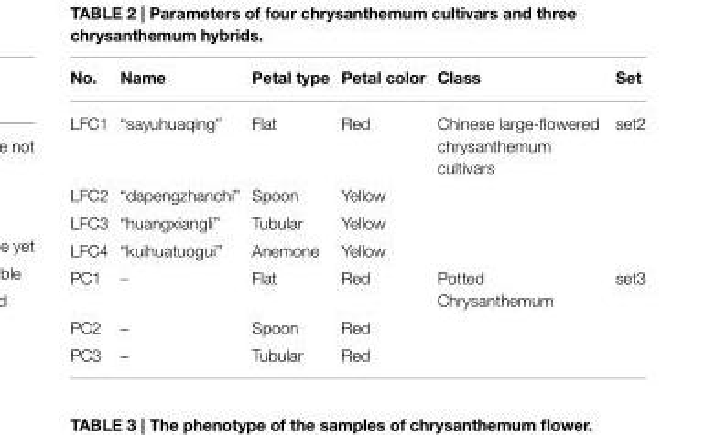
<table><thead><tr><td>No.</td><td>Name</td><td>Petal type</td><td>Petal color</td><td>Class</td><td>Set</td></tr></thead><tbody><tr><td>LFC1</td><td>“sayuhuaqing”</td><td>Flat</td><td>Red</td><td>Chinese large-flowered chrysanthemum cultivars</td><td>set2</td></tr><tr><td>LFC2</td><td>“dapengzhanchi”</td><td>Spoon</td><td>Yellow</td><td></td><td></td></tr><tr><td>LFC3</td><td>“huangxiangli”</td><td>Tubular</td><td>Yellow</td><td></td><td></td></tr><tr><td>LFC4</td><td>“kuihuatuogui”</td><td>Anemone</td><td>Yellow</td><td></td><td></td></tr><tr><td>PC1</td><td>–</td><td>Flat</td><td>Red</td><td>Potted Chrysanthemum</td><td>set3</td></tr><tr><td>PC2</td><td>–</td><td>Spoon</td><td>Red</td><td></td><td></td></tr><tr><td>PC3</td><td>–</td><td>Tubular</td><td>Red</td><td></td><td></td></tr></tbody></table>